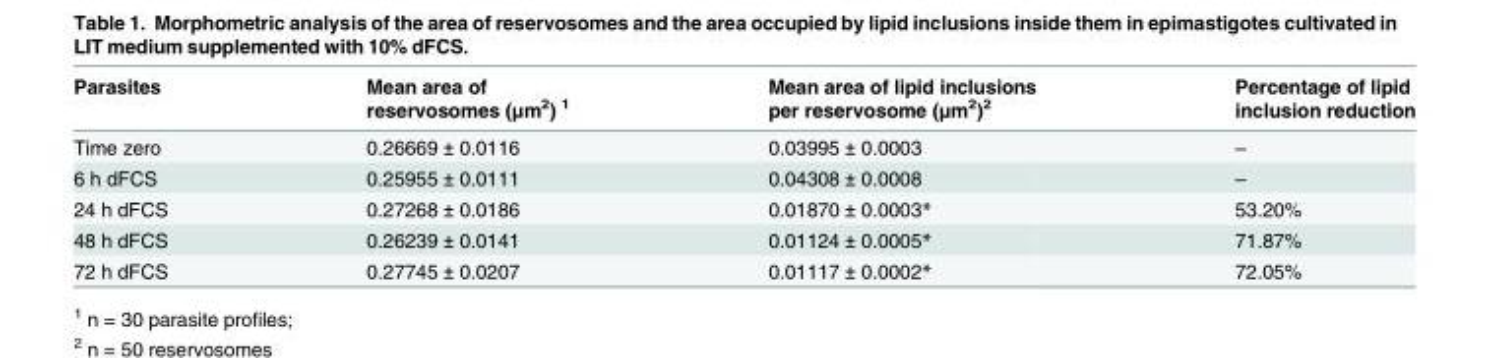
<table><thead><tr><td>Parasites</td><td>Mean area of reservosomes (μm<sup>2</sup>) <sup>1</sup></td><td>Mean area of lipid inclusions per reservosome (μm<sup>2</sup>)<sup>2</sup></td><td>Percentage of lipid inclusion reduction</td></tr></thead><tbody><tr><td>Time zero</td><td>0.26669 ± 0.0116</td><td>0.03995 ± 0.0003</td><td>–</td></tr><tr><td>6 h dFCS</td><td>0.25955 ± 0.0111</td><td>0.04308 ± 0.0008</td><td>–</td></tr><tr><td>24 h dFCS</td><td>0.27268 ± 0.0186</td><td>0.01870 ± 0.0003*</td><td>53.20%</td></tr><tr><td>48 h dFCS</td><td>0.26239 ± 0.0141</td><td>0.01124 ± 0.0005*</td><td>71.87%</td></tr><tr><td>72 h dFCS</td><td>0.27745 ± 0.0207</td><td>0.01117 ± 0.0002*</td><td>72.05%</td></tr></tbody></table>